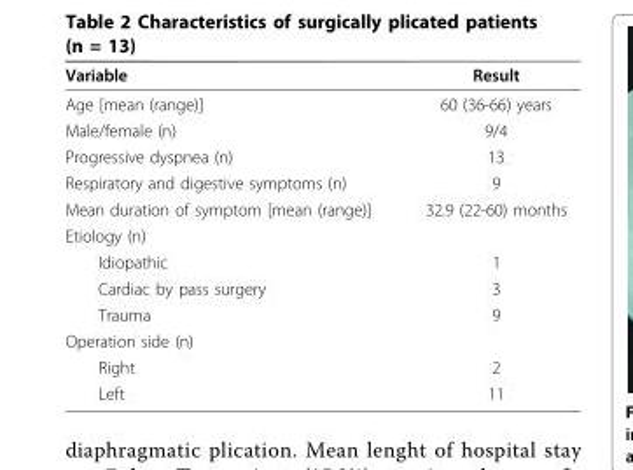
<table><thead><tr><td>Variable</td><td>Result</td></tr></thead><tbody><tr><td>Age [mean (range)]</td><td>60 (36-66) years</td></tr><tr><td>Male/female (n)</td><td>9/4</td></tr><tr><td>Progressive dyspnea (n)</td><td>13</td></tr><tr><td>Respiratory and digestive symptoms (n)</td><td>9</td></tr><tr><td>Mean duration of symptom [mean (range)]</td><td>32.9 (22-60) months</td></tr><tr><td colspan="2">Etiology (n)</td></tr><tr><td>Idiopathic</td><td>1</td></tr><tr><td>Cardiac by pass surgery</td><td>3</td></tr><tr><td>Trauma</td><td>9</td></tr><tr><td colspan="2">Operation side (n)</td></tr><tr><td>Right</td><td>2</td></tr><tr><td>Left</td><td>11</td></tr></tbody></table>